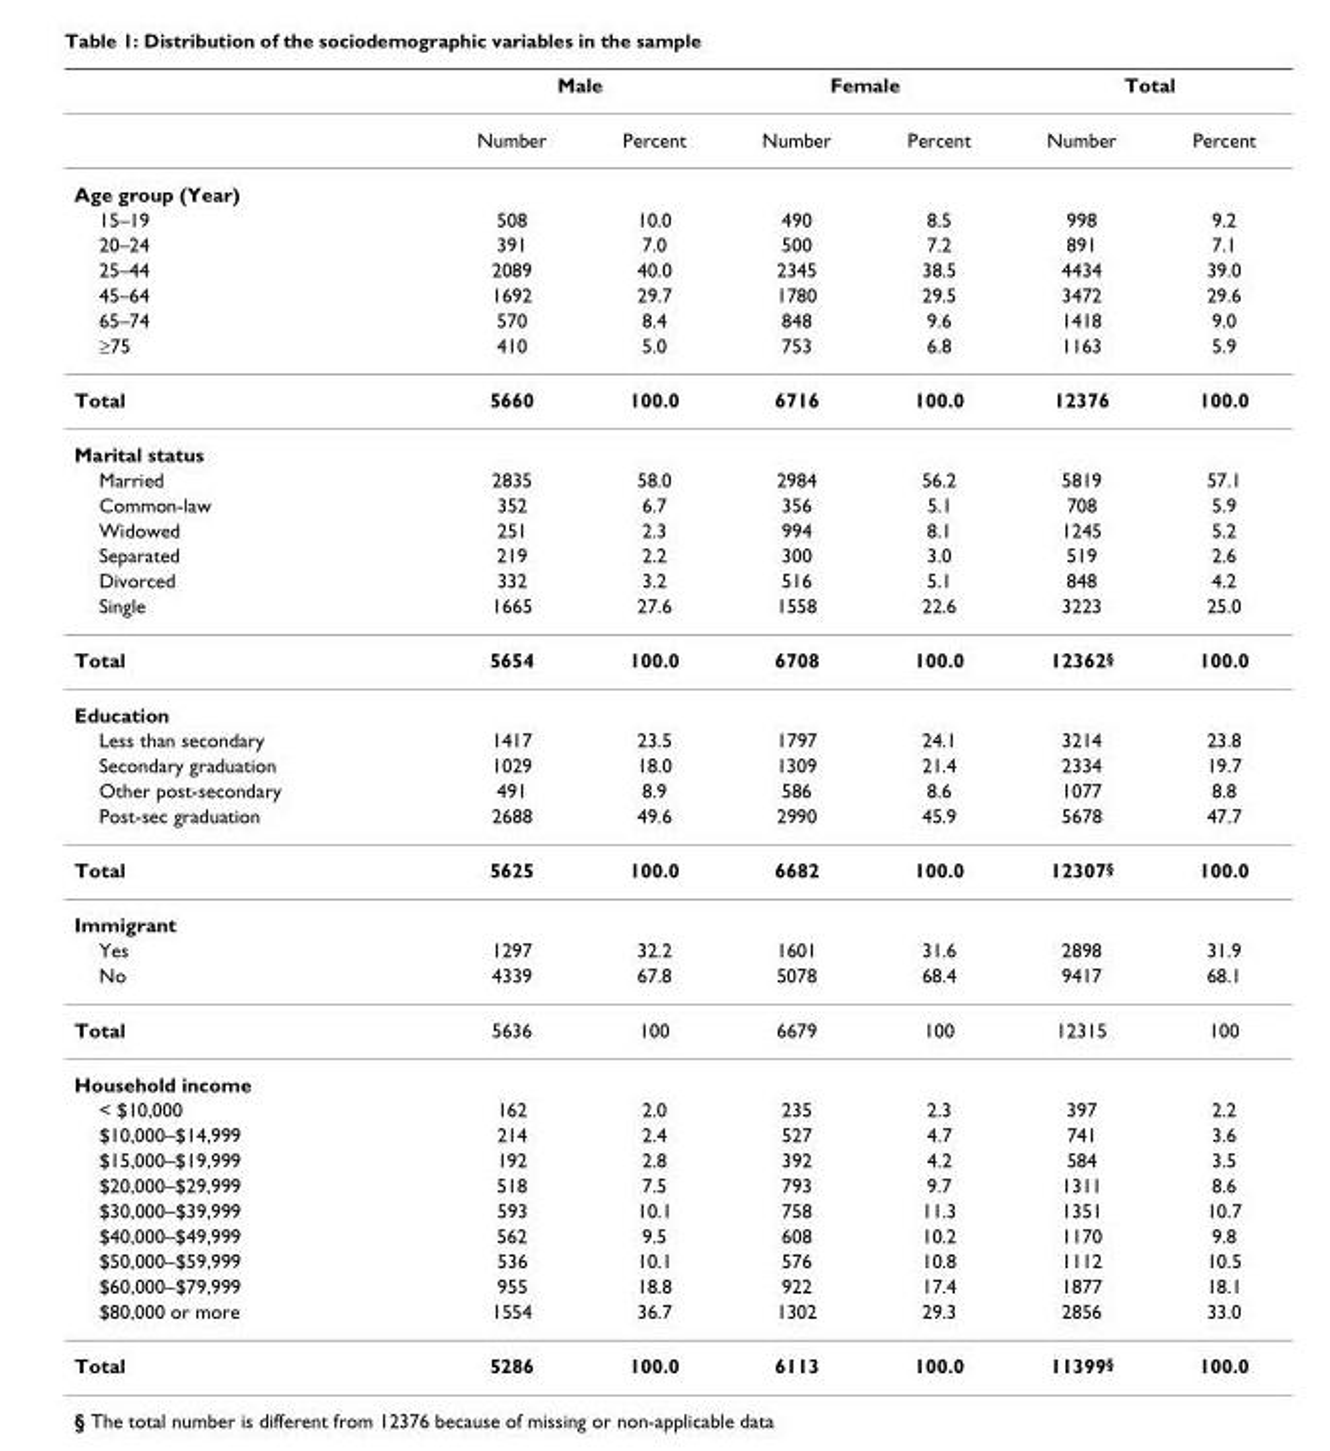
<table><thead><tr><td rowspan="2"></td><td colspan="2">Male</td><td colspan="2">Female</td><td colspan="2">Total</td></tr><tr><td>Number</td><td>Percent</td><td>Number</td><td>Percent</td><td>Number</td><td>Percent</td></tr></thead><tbody><tr><td colspan="7">Age group (Year)</td></tr><tr><td>15–19</td><td>508</td><td>10.0</td><td>490</td><td>8.5</td><td>998</td><td>9.2</td></tr><tr><td>20–24</td><td>391</td><td>7.0</td><td>500</td><td>7.2</td><td>891</td><td>7.1</td></tr><tr><td>25–44</td><td>2089</td><td>40.0</td><td>2345</td><td>38.5</td><td>4434</td><td>39.0</td></tr><tr><td>45–64</td><td>1692</td><td>29.7</td><td>1780</td><td>29.5</td><td>3472</td><td>29.6</td></tr><tr><td>65–74</td><td>570</td><td>8.4</td><td>848</td><td>9.6</td><td>1418</td><td>9.0</td></tr><tr><td>≥75</td><td>410</td><td>5.0</td><td>753</td><td>6.8</td><td>1163</td><td>5.9</td></tr><tr><td>Total</td><td>5660</td><td>100.0</td><td>6716</td><td>100.0</td><td>12376</td><td>100.0</td></tr><tr><td colspan="7">Marital status</td></tr><tr><td>Married</td><td>2835</td><td>58.0</td><td>2984</td><td>56.2</td><td>5819</td><td>57.1</td></tr><tr><td>Common-law</td><td>352</td><td>6.7</td><td>356</td><td>5.1</td><td>708</td><td>5.9</td></tr><tr><td>Widowed</td><td>251</td><td>2.3</td><td>994</td><td>8.1</td><td>1245</td><td>5.2</td></tr><tr><td>Separated</td><td>219</td><td>2.2</td><td>300</td><td>3.0</td><td>519</td><td>2.6</td></tr><tr><td>Divorced</td><td>332</td><td>3.2</td><td>516</td><td>5.1</td><td>848</td><td>4.2</td></tr><tr><td>Single</td><td>1665</td><td>27.6</td><td>1558</td><td>22.6</td><td>3223</td><td>25.0</td></tr><tr><td>Total</td><td>5654</td><td>100.0</td><td>6708</td><td>100.0</td><td>12362<sup>§</sup></td><td>100.0</td></tr><tr><td colspan="7">Education</td></tr><tr><td>Less than secondary</td><td>1417</td><td>23.5</td><td>1797</td><td>24.1</td><td>3214</td><td>23.8</td></tr><tr><td>Secondary graduation</td><td>1029</td><td>18.0</td><td>1309</td><td>21.4</td><td>2334</td><td>19.7</td></tr><tr><td>Other post-secondary</td><td>491</td><td>8.9</td><td>586</td><td>8.6</td><td>1077</td><td>8.8</td></tr><tr><td>Post-sec graduation</td><td>2688</td><td>49.6</td><td>2990</td><td>45.9</td><td>5678</td><td>47.7</td></tr><tr><td>Total</td><td>5625</td><td>100.0</td><td>6682</td><td>100.0</td><td>12307<sup>§</sup></td><td>100.0</td></tr><tr><td colspan="7">Immigrant</td></tr><tr><td>Yes</td><td>1297</td><td>32.2</td><td>1601</td><td>31.6</td><td>2898</td><td>31.9</td></tr><tr><td>No</td><td>4339</td><td>67.8</td><td>5078</td><td>68.4</td><td>9417</td><td>68.1</td></tr><tr><td>Total</td><td>5636</td><td>100</td><td>6679</td><td>100</td><td>12315</td><td>100</td></tr><tr><td colspan="7">Household income</td></tr><tr><td>&lt; $10,000</td><td>162</td><td>2.0</td><td>235</td><td>2.3</td><td>397</td><td>2.2</td></tr><tr><td>$10,000–$14,999</td><td>214</td><td>2.4</td><td>527</td><td>4.7</td><td>741</td><td>3.6</td></tr><tr><td>$15,000–$19,999</td><td>192</td><td>2.8</td><td>392</td><td>4.2</td><td>584</td><td>3.5</td></tr><tr><td>$20,000–$29,999</td><td>518</td><td>7.5</td><td>793</td><td>9.7</td><td>1311</td><td>8.6</td></tr><tr><td>$30,000–$39,999</td><td>593</td><td>10.1</td><td>758</td><td>11.3</td><td>1351</td><td>10.7</td></tr><tr><td>$40,000–$49,999</td><td>562</td><td>9.5</td><td>608</td><td>10.2</td><td>1170</td><td>9.8</td></tr><tr><td>$50,000–$59,999</td><td>536</td><td>10.1</td><td>576</td><td>10.8</td><td>1112</td><td>10.5</td></tr><tr><td>$60,000–$79,999</td><td>955</td><td>18.8</td><td>922</td><td>17.4</td><td>1877</td><td>18.1</td></tr><tr><td>$80,000 or more</td><td>1554</td><td>36.7</td><td>1302</td><td>29.3</td><td>2856</td><td>33.0</td></tr><tr><td>Total</td><td>5286</td><td>100.0</td><td>6113</td><td>100.0</td><td>11399<sup>§</sup></td><td>100.0</td></tr></tbody></table>